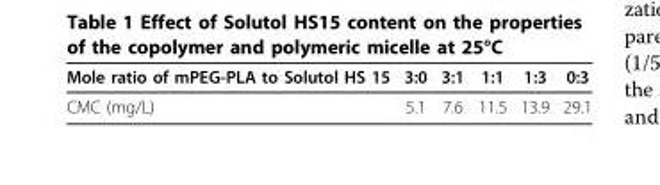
<table><thead><tr><td>Mole ratio of mPEG-PLA to Solutol HS 15</td><td>3:0</td><td>3:1</td><td>1:1</td><td>1:3</td><td>0:3</td></tr></thead><tbody><tr><td>CMC (mg/L)</td><td>5.1</td><td>7.6</td><td>11.5</td><td>13.9</td><td>29.1</td></tr></tbody></table>